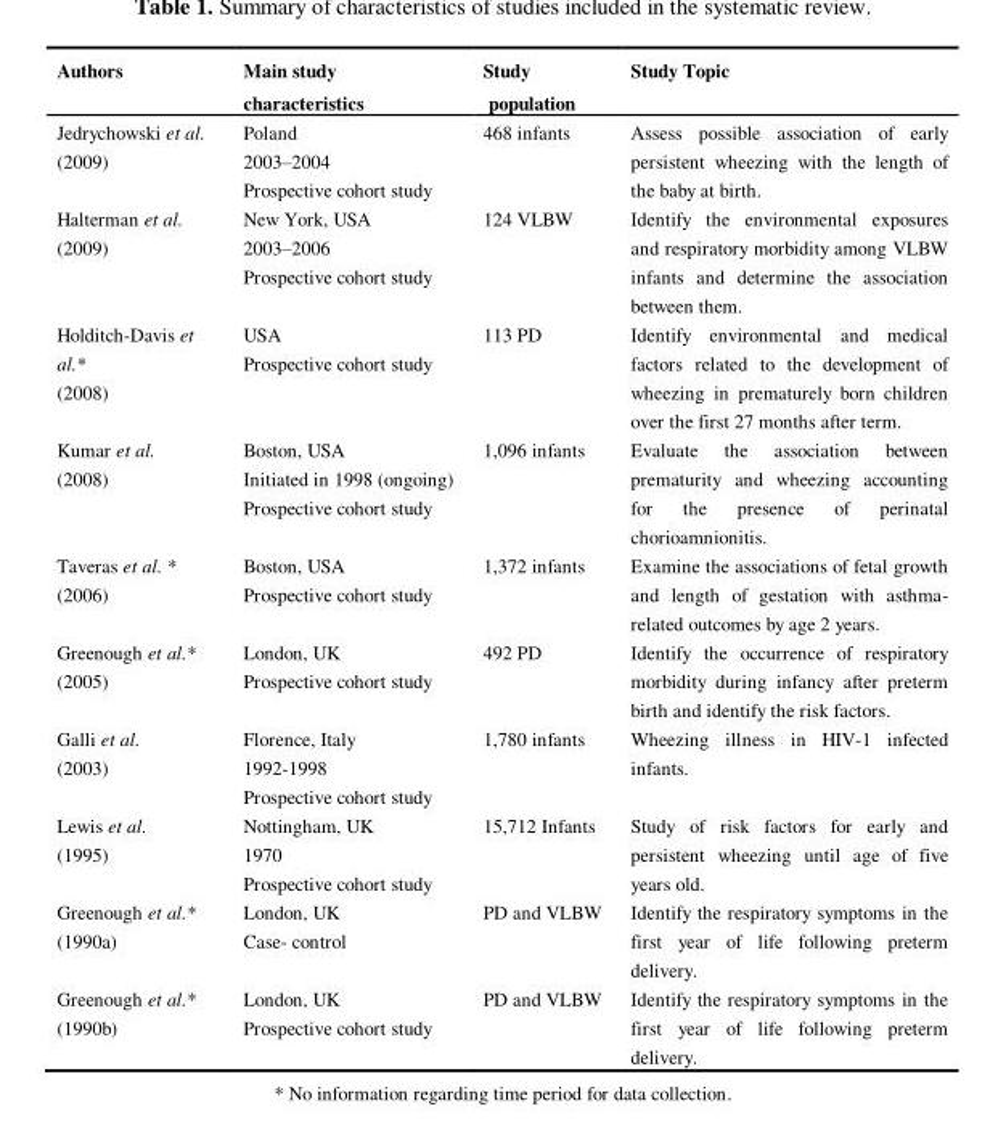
<table><thead><tr><td>Authors</td><td>Main study characteristics</td><td>Study population</td><td>Study Topic</td></tr></thead><tbody><tr><td>Jedrychowski et al. (2009)</td><td>Poland 2003–2004 Prospective cohort study</td><td>468 infants</td><td>Assess possible association of early persistent wheezing with the length of the baby at birth.</td></tr><tr><td>Halterman et al. (2009)</td><td>New York, USA 2003–2006 Prospective cohort study</td><td>124 VLBW</td><td>Identify the environmental exposures and respiratory morbidity among VLBW infants and determine the association between them.</td></tr><tr><td>Holditch-Davis et al.* (2008)</td><td>USA Prospective cohort study</td><td>113 PD</td><td>Identify environmental and medical factors related to the development of wheezing in prematurely born children over the first 27 months after term.</td></tr><tr><td>Kumar et al. (2008)</td><td>Boston, USA Initiated in 1998 (ongoing) Prospective cohort study</td><td>1,096 infants</td><td>Evaluate the association between prematurity and wheezing accounting for the presence of perinatal chorioamnionitis.</td></tr><tr><td>Taveras et al. * (2006)</td><td>Boston, USA Prospective cohort study</td><td>1,372 infants</td><td>Examine the associations of fetal growth and length of gestation with asthma- related outcomes by age 2 years.</td></tr><tr><td>Greenough et al.* (2005)</td><td>London, UK Prospective cohort study</td><td>492 PD</td><td>Identify the occurrence of respiratory morbidity during infancy after preterm birth and identify the risk factors.</td></tr><tr><td>Galli et al. (2003)</td><td>Florence, Italy 1992-1998 Prospective cohort study</td><td>1,780 infants</td><td>Wheezing illness in HIV-1 infected infants.</td></tr><tr><td>Lewis et al. (1995)</td><td>Nottingham, UK 1970 Prospective cohort study</td><td>15,712 Infants</td><td>Study of risk factors for early and persistent wheezing until age of five years old.</td></tr><tr><td>Greenough et al.* (1990a)</td><td>London, UK Case- control</td><td>PD and VLBW</td><td>Identify the respiratory symptoms in the first year of life following preterm delivery.</td></tr><tr><td>Greenough et al.* (1990b)</td><td>London, UK Prospective cohort study</td><td>PD and VLBW</td><td>Identify the respiratory symptoms in the first year of life following preterm delivery.</td></tr></tbody></table>